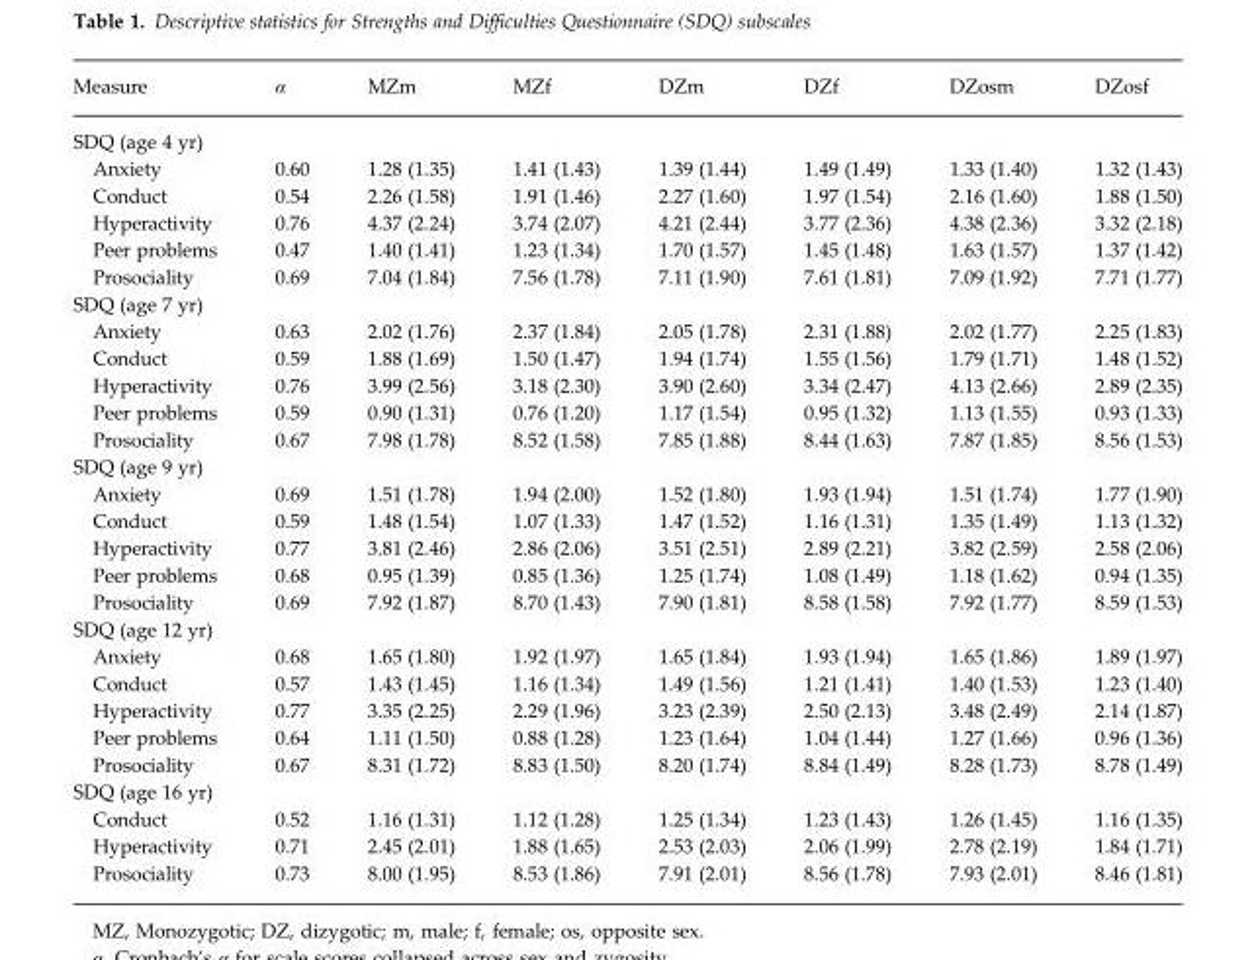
<table><thead><tr><td>Measure</td><td>α</td><td>MZm</td><td>MZf</td><td>DZm</td><td>DZf</td><td>DZosm</td><td>DZosf</td></tr></thead><tbody><tr><td colspan="8">SDQ (age 4 yr)</td></tr><tr><td>Anxiety</td><td>0.60</td><td>1.28 (1.35)</td><td>1.41 (1.43)</td><td>1.39 (1.44)</td><td>1.49 (1.49)</td><td>1.33 (1.40)</td><td>1.32 (1.43)</td></tr><tr><td>Conduct</td><td>0.54</td><td>2.26 (1.58)</td><td>1.91 (1.46)</td><td>2.27 (1.60)</td><td>1.97 (1.54)</td><td>2.16 (1.60)</td><td>1.88 (1.50)</td></tr><tr><td>Hyperactivity</td><td>0.76</td><td>4.37 (2.24)</td><td>3.74 (2.07)</td><td>4.21 (2.44)</td><td>3.77 (2.36)</td><td>4.38 (2.36)</td><td>3.32 (2.18)</td></tr><tr><td>Peer problems</td><td>0.47</td><td>1.40 (1.41)</td><td>1.23 (1.34)</td><td>1.70 (1.57)</td><td>1.45 (1.48)</td><td>1.63 (1.57)</td><td>1.37 (1.42)</td></tr><tr><td>Prosociality</td><td>0.69</td><td>7.04 (1.84)</td><td>7.56 (1.78)</td><td>7.11 (1.90)</td><td>7.61 (1.81)</td><td>7.09 (1.92)</td><td>7.71 (1.77)</td></tr><tr><td colspan="8">SDQ (age 7 yr)</td></tr><tr><td>Anxiety</td><td>0.63</td><td>2.02 (1.76)</td><td>2.37 (1.84)</td><td>2.05 (1.78)</td><td>2.31 (1.88)</td><td>2.02 (1.77)</td><td>2.25 (1.83)</td></tr><tr><td>Conduct</td><td>0.59</td><td>1.88 (1.69)</td><td>1.50 (1.47)</td><td>1.94 (1.74)</td><td>1.55 (1.56)</td><td>1.79 (1.71)</td><td>1.48 (1.52)</td></tr><tr><td>Hyperactivity</td><td>0.76</td><td>3.99 (2.56)</td><td>3.18 (2.30)</td><td>3.90 (2.60)</td><td>3.34 (2.47)</td><td>4.13 (2.66)</td><td>2.89 (2.35)</td></tr><tr><td>Peer problems</td><td>0.59</td><td>0.90 (1.31)</td><td>0.76 (1.20)</td><td>1.17 (1.54)</td><td>0.95 (1.32)</td><td>1.13 (1.55)</td><td>0.93 (1.33)</td></tr><tr><td>Prosociality</td><td>0.67</td><td>7.98 (1.78)</td><td>8.52 (1.58)</td><td>7.85 (1.88)</td><td>8.44 (1.63)</td><td>7.87 (1.85)</td><td>8.56 (1.53)</td></tr><tr><td colspan="8">SDQ (age 9 yr)</td></tr><tr><td>Anxiety</td><td>0.69</td><td>1.51 (1.78)</td><td>1.94 (2.00)</td><td>1.52 (1.80)</td><td>1.93 (1.94)</td><td>1.51 (1.74)</td><td>1.77 (1.90)</td></tr><tr><td>Conduct</td><td>0.59</td><td>1.48 (1.54)</td><td>1.07 (1.33)</td><td>1.47 (1.52)</td><td>1.16 (1.31)</td><td>1.35 (1.49)</td><td>1.13 (1.32)</td></tr><tr><td>Hyperactivity</td><td>0.77</td><td>3.81 (2.46)</td><td>2.86 (2.06)</td><td>3.51 (2.51)</td><td>2.89 (2.21)</td><td>3.82 (2.59)</td><td>2.58 (2.06)</td></tr><tr><td>Peer problems</td><td>0.68</td><td>0.95 (1.39)</td><td>0.85 (1.36)</td><td>1.25 (1.74)</td><td>1.08 (1.49)</td><td>1.18 (1.62)</td><td>0.94 (1.35)</td></tr><tr><td>Prosociality</td><td>0.69</td><td>7.92 (1.87)</td><td>8.70 (1.43)</td><td>7.90 (1.81)</td><td>8.58 (1.58)</td><td>7.92 (1.77)</td><td>8.59 (1.53)</td></tr><tr><td colspan="8">SDQ (age 12 yr)</td></tr><tr><td>Anxiety</td><td>0.68</td><td>1.65 (1.80)</td><td>1.92 (1.97)</td><td>1.65 (1.84)</td><td>1.93 (1.94)</td><td>1.65 (1.86)</td><td>1.89 (1.97)</td></tr><tr><td>Conduct</td><td>0.57</td><td>1.43 (1.45)</td><td>1.16 (1.34)</td><td>1.49 (1.56)</td><td>1.21 (1.41)</td><td>1.40 (1.53)</td><td>1.23 (1.40)</td></tr><tr><td>Hyperactivity</td><td>0.77</td><td>3.35 (2.25)</td><td>2.29 (1.96)</td><td>3.23 (2.39)</td><td>2.50 (2.13)</td><td>3.48 (2.49)</td><td>2.14 (1.87)</td></tr><tr><td>Peer problems</td><td>0.64</td><td>1.11 (1.50)</td><td>0.88 (1.28)</td><td>1.23 (1.64)</td><td>1.04 (1.44)</td><td>1.27 (1.66)</td><td>0.96 (1.36)</td></tr><tr><td>Prosociality</td><td>0.67</td><td>8.31 (1.72)</td><td>8.83 (1.50)</td><td>8.20 (1.74)</td><td>8.84 (1.49)</td><td>8.28 (1.73)</td><td>8.78 (1.49)</td></tr><tr><td colspan="8">SDQ (age 16 yr)</td></tr><tr><td>Conduct</td><td>0.52</td><td>1.16 (1.31)</td><td>1.12 (1.28)</td><td>1.25 (1.34)</td><td>1.23 (1.43)</td><td>1.26 (1.45)</td><td>1.16 (1.35)</td></tr><tr><td>Hyperactivity</td><td>0.71</td><td>2.45 (2.01)</td><td>1.88 (1.65)</td><td>2.53 (2.03)</td><td>2.06 (1.99)</td><td>2.78 (2.19)</td><td>1.84 (1.71)</td></tr><tr><td>Prosociality</td><td>0.73</td><td>8.00 (1.95)</td><td>8.53 (1.86)</td><td>7.91 (2.01)</td><td>8.56 (1.78)</td><td>7.93 (2.01)</td><td>8.46 (1.81)</td></tr></tbody></table>